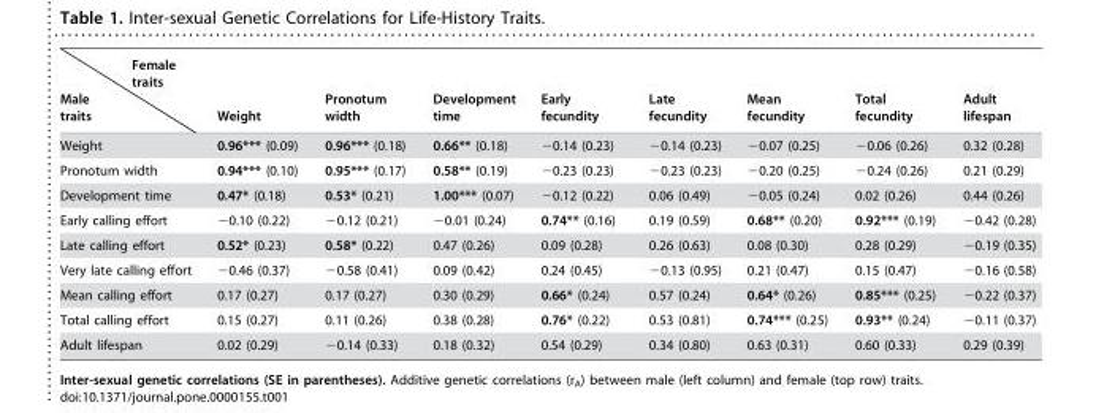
<table><thead><tr><td>Female traits Male traits</td><td>Weight</td><td>Pronotum width</td><td>Development time</td><td>Early fecundity</td><td>Late fecundity</td><td>Mean fecundity</td><td>Total fecundity</td><td>Adult lifespan</td></tr></thead><tbody><tr><td>Weight</td><td>0.96*** (0.09)</td><td>0.96*** (0.18)</td><td>0.66** (0.18)</td><td>−0.14 (0.23)</td><td>−0.14 (0.23)</td><td>−0.07 (0.25)</td><td>−0.06 (0.26)</td><td>0.32 (0.28)</td></tr><tr><td>Pronotum width</td><td>0.94*** (0.10)</td><td>0.95*** (0.17)</td><td>0.58** (0.19)</td><td>−0.23 (0.23)</td><td>−0.23 (0.23)</td><td>−0.20 (0.25)</td><td>−0.24 (0.26)</td><td>0.21 (0.29)</td></tr><tr><td>Development time</td><td>0.47* (0.18)</td><td>0.53* (0.21)</td><td>1.00*** (0.07)</td><td>−0.12 (0.22)</td><td>0.06 (0.49)</td><td>−0.05 (0.24)</td><td>0.02 (0.26)</td><td>0.44 (0.26)</td></tr><tr><td>Early calling effort</td><td>−0.10 (0.22)</td><td>−0.12 (0.21)</td><td>−0.01 (0.24)</td><td>0.74** (0.16)</td><td>0.19 (0.59)</td><td>0.68** (0.20)</td><td>0.92*** (0.19)</td><td>−0.42 (0.28)</td></tr><tr><td>Late calling effort</td><td>0.52* (0.23)</td><td>0.58* (0.22)</td><td>0.47 (0.26)</td><td>0.09 (0.28)</td><td>0.26 (0.63)</td><td>0.08 (0.30)</td><td>0.28 (0.29)</td><td>−0.19 (0.35)</td></tr><tr><td>Very late calling effort</td><td>−0.46 (0.37)</td><td>−0.58 (0.41)</td><td>0.09 (0.42)</td><td>0.24 (0.45)</td><td>−0.13 (0.95)</td><td>0.21 (0.47)</td><td>0.15 (0.47)</td><td>−0.16 (0.58)</td></tr><tr><td>Mean calling effort</td><td>0.17 (0.27)</td><td>0.17 (0.27)</td><td>0.30 (0.29)</td><td>0.66* (0.24)</td><td>0.57 (0.24)</td><td>0.64* (0.26)</td><td>0.85*** (0.25)</td><td>−0.22 (0.37)</td></tr><tr><td>Total calling effort</td><td>0.15 (0.27)</td><td>0.11 (0.26)</td><td>0.38 (0.28)</td><td>0.76* (0.22)</td><td>0.53 (0.81)</td><td>0.74*** (0.25)</td><td>0.93** (0.24)</td><td>−0.11 (0.37)</td></tr><tr><td>Adult lifespan</td><td>0.02 (0.29)</td><td>−0.14 (0.33)</td><td>0.18 (0.32)</td><td>0.54 (0.29)</td><td>0.34 (0.80)</td><td>0.63 (0.31)</td><td>0.60 (0.33)</td><td>0.29 (0.39)</td></tr></tbody></table>